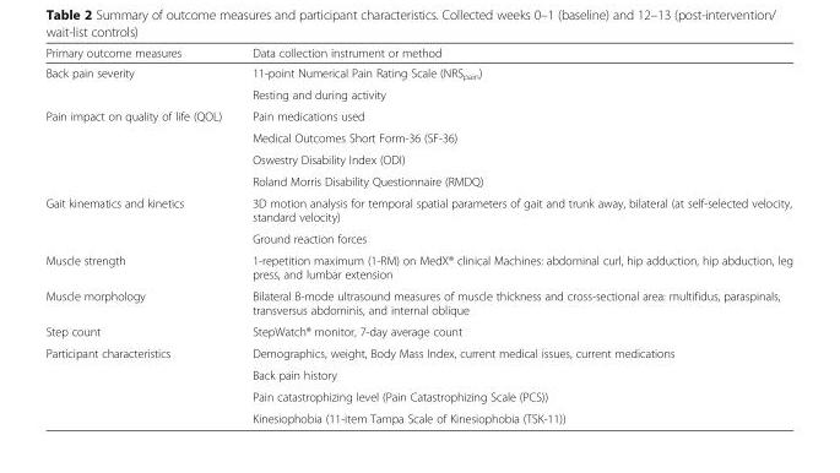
<table><thead><tr><td>Primary outcome measures</td><td>Data collection instrument or method</td></tr></thead><tbody><tr><td rowspan="2">Back pain severity</td><td>11-point Numerical Pain Rating Scale (NRS<sub>pain</sub>)</td></tr><tr><td>Resting and during activity</td></tr><tr><td rowspan="4">Pain impact on quality of life (QOL)</td><td>Pain medications used</td></tr><tr><td>Medical Outcomes Short Form-36 (SF-36)</td></tr><tr><td>Oswestry Disability Index (ODI)</td></tr><tr><td>Roland Morris Disability Questionnaire (RMDQ)</td></tr><tr><td rowspan="2">Gait kinematics and kinetics</td><td>3D motion analysis for temporal spatial parameters of gait and trunk away, bilateral (at self-selected velocity, standard velocity)</td></tr><tr><td>Ground reaction forces</td></tr><tr><td>Muscle strength</td><td>1-repetition maximum (1-RM) on MedX® clinical Machines: abdominal curl, hip adduction, hip abduction, leg press, and lumbar extension</td></tr><tr><td>Muscle morphology</td><td>Bilateral B-mode ultrasound measures of muscle thickness and cross-sectional area: multifidus, paraspinals, transversus abdominis, and internal oblique</td></tr><tr><td>Step count</td><td>StepWatch® monitor, 7-day average count</td></tr><tr><td rowspan="4">Participant characteristics</td><td>Demographics, weight, Body Mass Index, current medical issues, current medications</td></tr><tr><td>Back pain history</td></tr><tr><td>Pain catastrophizing level (Pain Catastrophizing Scale (PCS))</td></tr><tr><td>Kinesiophobia (11-item Tampa Scale of Kinesiophobia (TSK-11))</td></tr></tbody></table>